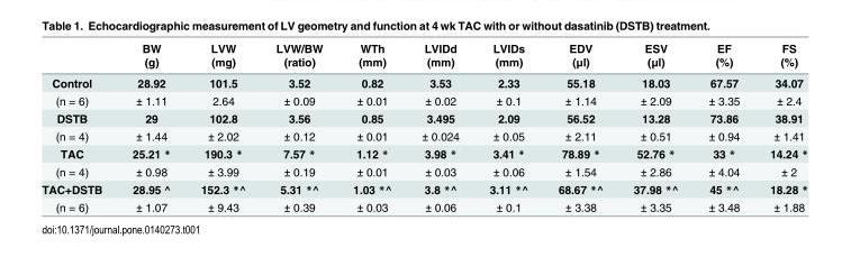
<table><thead><tr><td rowspan="2"></td><td rowspan="2">BW (g)</td><td rowspan="2">LVW (mg)</td><td rowspan="2">LVW/BW (ratio)</td><td rowspan="2">WTh (mm)</td><td rowspan="2">LVIDd (mm)</td><td rowspan="2">LVIDs (mm)</td><td rowspan="2">EDV (μl)</td><td rowspan="2">ESV (μl)</td><td rowspan="2">EF (%)</td><td rowspan="2">FS (%)</td></tr><tr></tr></thead><tbody><tr><td>Control</td><td>28.92</td><td>101.5</td><td>3.52</td><td>0.82</td><td>3.53</td><td>2.33</td><td>55.18</td><td>18.03</td><td>67.57</td><td>34.07</td></tr><tr><td>(n = 6)</td><td>± 1.11</td><td>2.64</td><td>± 0.09</td><td>± 0.01</td><td>± 0.02</td><td>± 0.1</td><td>± 1.14</td><td>± 2.09</td><td>± 3.35</td><td>± 2.4</td></tr><tr><td>DSTB</td><td>29</td><td>102.8</td><td>3.56</td><td>0.85</td><td>3.495</td><td>2.09</td><td>56.52</td><td>13.28</td><td>73.86</td><td>38.91</td></tr><tr><td>(n = 4)</td><td>± 1.44</td><td>± 2.02</td><td>± 0.12</td><td>± 0.01</td><td>± 0.024</td><td>± 0.05</td><td>± 2.11</td><td>± 0.51</td><td>± 0.94</td><td>± 1.41</td></tr><tr><td>TAC</td><td>25.21 *</td><td>190.3 *</td><td>7.57 *</td><td>1.12 *</td><td>3.98 *</td><td>3.41 *</td><td>78.89 *</td><td>52.76 *</td><td>33 *</td><td>14.24 *</td></tr><tr><td>(n = 4)</td><td>± 0.98</td><td>± 3.99</td><td>± 0.19</td><td>± 0.01</td><td>± 0.03</td><td>± 0.06</td><td>± 1.54</td><td>± 2.86</td><td>± 4.04</td><td>± 2</td></tr><tr><td>TAC+DSTB</td><td>28.95 ^</td><td>152.3 *^</td><td>5.31 *^</td><td>1.03 *^</td><td>3.8 *^</td><td>3.11 *^</td><td>68.67 *^</td><td>37.98 *^</td><td>45 *^</td><td>18.28 *</td></tr><tr><td>(n = 6)</td><td>± 1.07</td><td>± 9.43</td><td>± 0.39</td><td>± 0.03</td><td>± 0.06</td><td>± 0.1</td><td>± 3.38</td><td>± 3.35</td><td>± 3.48</td><td>± 1.88</td></tr></tbody></table>